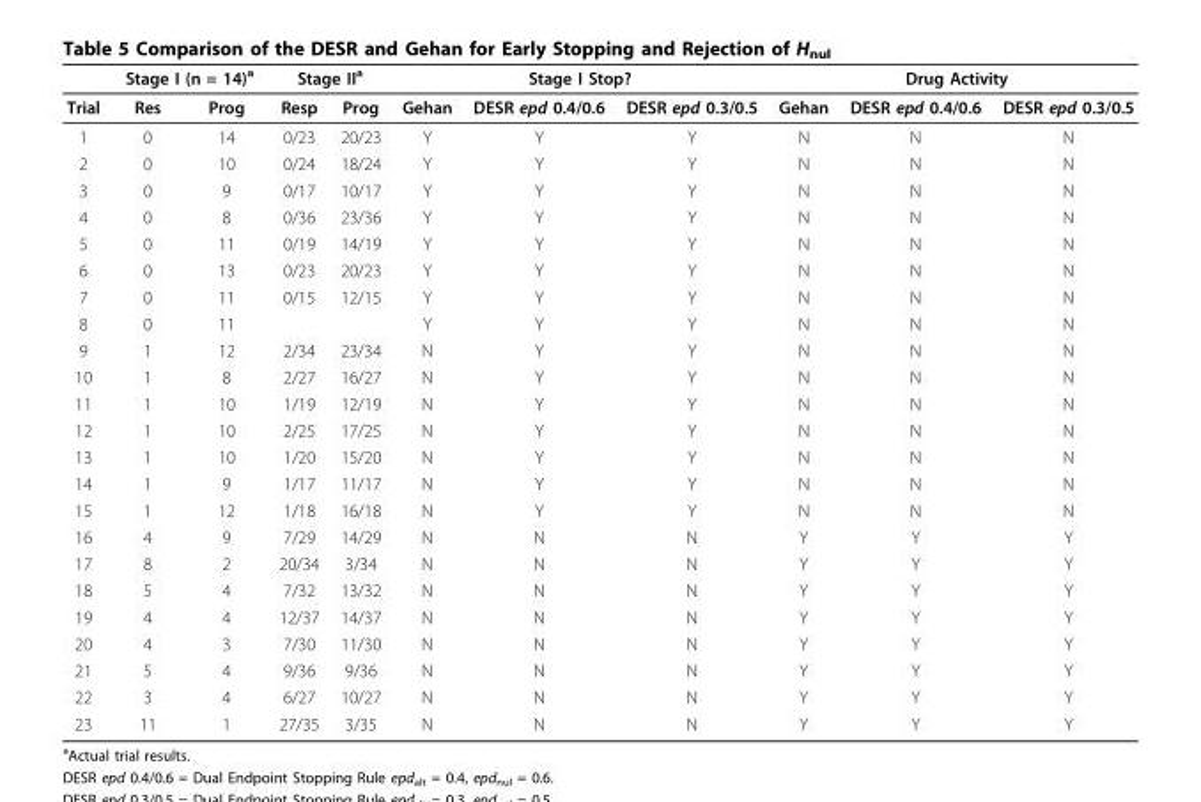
<table><thead><tr><td rowspan="2">Trial</td><td colspan="2">Stage I (n = 14)<sup>a</sup></td><td colspan="2">Stage II<sup>a</sup></td><td colspan="3">Stage I Stop?</td><td colspan="3">Drug Activity</td></tr><tr><td>Res</td><td>Prog</td><td>Resp</td><td>Prog</td><td>Gehan</td><td>DESR epd 0.4/0.6</td><td>DESR epd 0.3/0.5</td><td>Gehan</td><td>DESR epd 0.4/0.6</td><td>DESR epd 0.3/0.5</td></tr></thead><tbody><tr><td>1</td><td>0</td><td>14</td><td>0/23</td><td>20/23</td><td>Y</td><td>Y</td><td>Y</td><td>N</td><td>N</td><td>N</td></tr><tr><td>2</td><td>0</td><td>10</td><td>0/24</td><td>18/24</td><td>Y</td><td>Y</td><td>Y</td><td>N</td><td>N</td><td>N</td></tr><tr><td>3</td><td>0</td><td>9</td><td>0/17</td><td>10/17</td><td>Y</td><td>Y</td><td>Y</td><td>N</td><td>N</td><td>N</td></tr><tr><td>4</td><td>0</td><td>8</td><td>0/36</td><td>23/36</td><td>Y</td><td>Y</td><td>Y</td><td>N</td><td>N</td><td>N</td></tr><tr><td>5</td><td>0</td><td>11</td><td>0/19</td><td>14/19</td><td>Y</td><td>Y</td><td>Y</td><td>N</td><td>N</td><td>N</td></tr><tr><td>6</td><td>0</td><td>13</td><td>0/23</td><td>20/23</td><td>Y</td><td>Y</td><td>Y</td><td>N</td><td>N</td><td>N</td></tr><tr><td>7</td><td>0</td><td>11</td><td>0/15</td><td>12/15</td><td>Y</td><td>Y</td><td>Y</td><td>N</td><td>N</td><td>N</td></tr><tr><td>8</td><td>0</td><td>11</td><td></td><td></td><td>Y</td><td>Y</td><td>Y</td><td>N</td><td>N</td><td>N</td></tr><tr><td>9</td><td>1</td><td>12</td><td>2/34</td><td>23/34</td><td>N</td><td>Y</td><td>Y</td><td>N</td><td>N</td><td>N</td></tr><tr><td>10</td><td>1</td><td>8</td><td>2/27</td><td>16/27</td><td>N</td><td>Y</td><td>Y</td><td>N</td><td>N</td><td>N</td></tr><tr><td>11</td><td>1</td><td>10</td><td>1/19</td><td>12/19</td><td>N</td><td>Y</td><td>Y</td><td>N</td><td>N</td><td>N</td></tr><tr><td>12</td><td>1</td><td>10</td><td>2/25</td><td>17/25</td><td>N</td><td>Y</td><td>Y</td><td>N</td><td>N</td><td>N</td></tr><tr><td>13</td><td>1</td><td>10</td><td>1/20</td><td>15/20</td><td>N</td><td>Y</td><td>Y</td><td>N</td><td>N</td><td>N</td></tr><tr><td>14</td><td>1</td><td>9</td><td>1/17</td><td>11/17</td><td>N</td><td>Y</td><td>Y</td><td>N</td><td>N</td><td>N</td></tr><tr><td>15</td><td>1</td><td>12</td><td>1/18</td><td>16/18</td><td>N</td><td>Y</td><td>Y</td><td>N</td><td>N</td><td>N</td></tr><tr><td>16</td><td>4</td><td>9</td><td>7/29</td><td>14/29</td><td>N</td><td>N</td><td>N</td><td>Y</td><td>Y</td><td>Y</td></tr><tr><td>17</td><td>8</td><td>2</td><td>20/34</td><td>3/34</td><td>N</td><td>N</td><td>N</td><td>Y</td><td>Y</td><td>Y</td></tr><tr><td>18</td><td>5</td><td>4</td><td>7/32</td><td>13/32</td><td>N</td><td>N</td><td>N</td><td>Y</td><td>Y</td><td>Y</td></tr><tr><td>19</td><td>4</td><td>4</td><td>12/37</td><td>14/37</td><td>N</td><td>N</td><td>N</td><td>Y</td><td>Y</td><td>Y</td></tr><tr><td>20</td><td>4</td><td>3</td><td>7/30</td><td>11/30</td><td>N</td><td>N</td><td>N</td><td>Y</td><td>Y</td><td>Y</td></tr><tr><td>21</td><td>5</td><td>4</td><td>9/36</td><td>9/36</td><td>N</td><td>N</td><td>N</td><td>Y</td><td>Y</td><td>Y</td></tr><tr><td>22</td><td>3</td><td>4</td><td>6/27</td><td>10/27</td><td>N</td><td>N</td><td>N</td><td>Y</td><td>Y</td><td>Y</td></tr><tr><td>23</td><td>11</td><td>1</td><td>27/35</td><td>3/35</td><td>N</td><td>N</td><td>N</td><td>Y</td><td>Y</td><td>Y</td></tr></tbody></table>